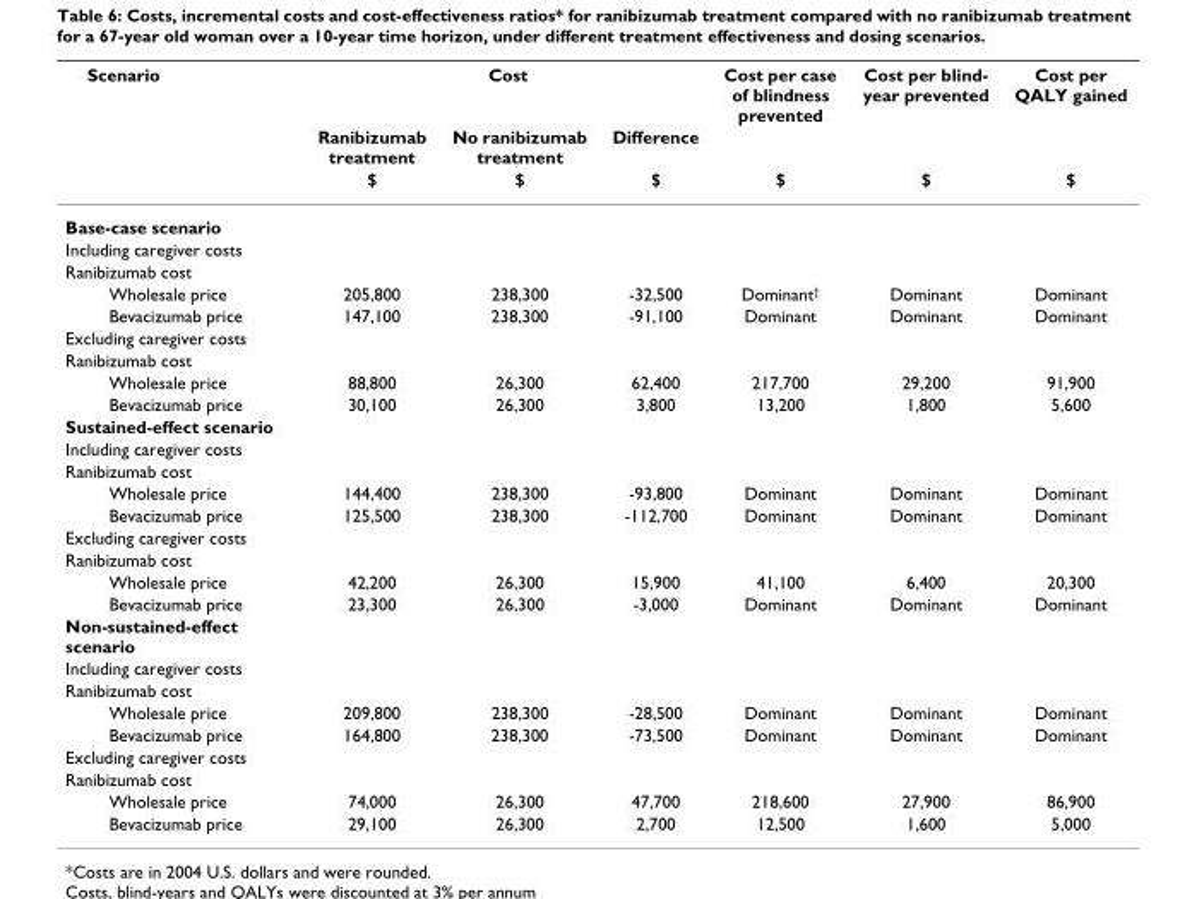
<table><thead><tr><td rowspan="3">Scenario</td><td colspan="3">Cost</td><td rowspan="3">Cost per case of blindness prevented $</td><td rowspan="3">Cost per blind- year prevented $</td><td rowspan="3">Cost per QALY gained $</td></tr><tr><td rowspan="2">Ranibizumab treatment $</td><td rowspan="2">No ranibizumab treatment $</td><td rowspan="2">Difference $</td></tr><tr></tr></thead><tbody><tr><td colspan="7">Base-case scenario</td></tr><tr><td colspan="7">Including caregiver costs</td></tr><tr><td colspan="7">Ranibizumab cost</td></tr><tr><td>Wholesale price</td><td>205,800</td><td>238,300</td><td>-32,500</td><td>Dominant<sup>†</sup></td><td>Dominant</td><td>Dominant</td></tr><tr><td>Bevacizumab price</td><td>147,100</td><td>238,300</td><td>-91,100</td><td>Dominant</td><td>Dominant</td><td>Dominant</td></tr><tr><td colspan="7">Excluding caregiver costs</td></tr><tr><td colspan="7">Ranibizumab cost</td></tr><tr><td>Wholesale price</td><td>88,800</td><td>26,300</td><td>62,400</td><td>217,700</td><td>29,200</td><td>91,900</td></tr><tr><td>Bevacizumab price</td><td>30,100</td><td>26,300</td><td>3,800</td><td>13,200</td><td>1,800</td><td>5,600</td></tr><tr><td colspan="7">Sustained-effect scenario</td></tr><tr><td colspan="7">Including caregiver costs</td></tr><tr><td colspan="7">Ranibizumab cost</td></tr><tr><td>Wholesale price</td><td>144,400</td><td>238,300</td><td>-93,800</td><td>Dominant</td><td>Dominant</td><td>Dominant</td></tr><tr><td>Bevacizumab price</td><td>125,500</td><td>238,300</td><td>-112,700</td><td>Dominant</td><td>Dominant</td><td>Dominant</td></tr><tr><td colspan="7">Excluding caregiver costs</td></tr><tr><td colspan="7">Ranibizumab cost</td></tr><tr><td>Wholesale price</td><td>42,200</td><td>26,300</td><td>15,900</td><td>41,100</td><td>6,400</td><td>20,300</td></tr><tr><td>Bevacizumab price</td><td>23,300</td><td>26,300</td><td>-3,000</td><td>Dominant</td><td>Dominant</td><td>Dominant</td></tr><tr><td colspan="7">Non-sustained-effect scenario</td></tr><tr><td colspan="7">Including caregiver costs</td></tr><tr><td colspan="7">Ranibizumab cost</td></tr><tr><td>Wholesale price</td><td>209,800</td><td>238,300</td><td>-28,500</td><td>Dominant</td><td>Dominant</td><td>Dominant</td></tr><tr><td>Bevacizumab price</td><td>164,800</td><td>238,300</td><td>-73,500</td><td>Dominant</td><td>Dominant</td><td>Dominant</td></tr><tr><td colspan="7">Excluding caregiver costs</td></tr><tr><td colspan="7">Ranibizumab cost</td></tr><tr><td>Wholesale price</td><td>74,000</td><td>26,300</td><td>47,700</td><td>218,600</td><td>27,900</td><td>86,900</td></tr><tr><td>Bevacizumab price</td><td>29,100</td><td>26,300</td><td>2,700</td><td>12,500</td><td>1,600</td><td>5,000</td></tr></tbody></table>